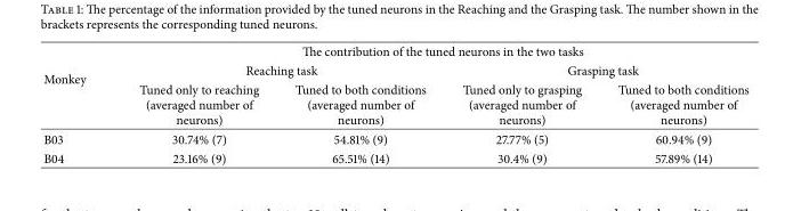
<table><thead><tr><td rowspan="3">Monkey</td><td colspan="4">The contribution of the tuned neurons in the two tasks</td></tr><tr><td colspan="2">Reaching task</td><td colspan="2">Grasping task</td></tr><tr><td>Tuned only to reaching (averaged number of neurons)</td><td>Tuned to both conditions (averaged number of neurons)</td><td>Tuned only to grasping (averaged number of neurons)</td><td>Tuned to both conditions (averaged number of neurons)</td></tr></thead><tbody><tr><td>B03</td><td>30.74% (7)</td><td>54.81% (9)</td><td>27.77% (5)</td><td>60.94% (9)</td></tr><tr><td>B04</td><td>23.16% (9)</td><td>65.51% (14)</td><td>30.4% (9)</td><td>57.89% (14)</td></tr></tbody></table>